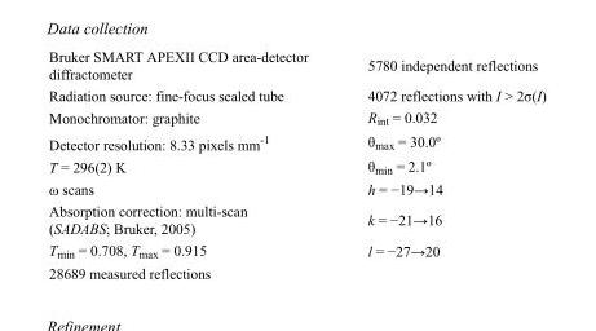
<table><tbody><tr><td>Bruker SMART APEXII CCD area-detector diffractometer</td><td>5780 independent reflections</td></tr><tr><td>Radiation source: fine-focus sealed tube</td><td>4072 reflections with I &gt; 2σ(I)</td></tr><tr><td>Monochromator: graphite</td><td>R<sub>int</sub> = 0.032</td></tr><tr><td>Detector resolution: 8.33 pixels mm<sup>-1</sup></td><td>θ<sub>max</sub> = 30.0º</td></tr><tr><td>T = 296(2) K</td><td>θ<sub>min</sub> = 2.1º</td></tr><tr><td>ω scans</td><td>h = −19→14</td></tr><tr><td>Absorption correction: multi-scan (SADABS; Bruker, 2005)</td><td>k = −21→16</td></tr><tr><td>T<sub>min</sub> = 0.708, T<sub>max</sub> = 0.915</td><td>l = −27→20</td></tr><tr><td>28689 measured reflections</td><td></td></tr></tbody></table>